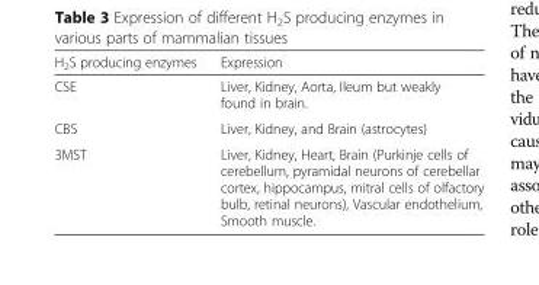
<table><thead><tr><td>H<sub>2</sub>S producing enzymes</td><td>Expression</td></tr></thead><tbody><tr><td>CSE</td><td>Liver, Kidney, Aorta, Ileum but weakly found in brain.</td></tr><tr><td>CBS</td><td>Liver, Kidney, and Brain (astrocytes)</td></tr><tr><td>3MST</td><td>Liver, Kidney, Heart, Brain (Purkinje cells of cerebellum, pyramidal neurons of cerebellar cortex, hippocampus, mitral cells of olfactory bulb, retinal neurons), Vascular endothelium, Smooth muscle.</td></tr></tbody></table>